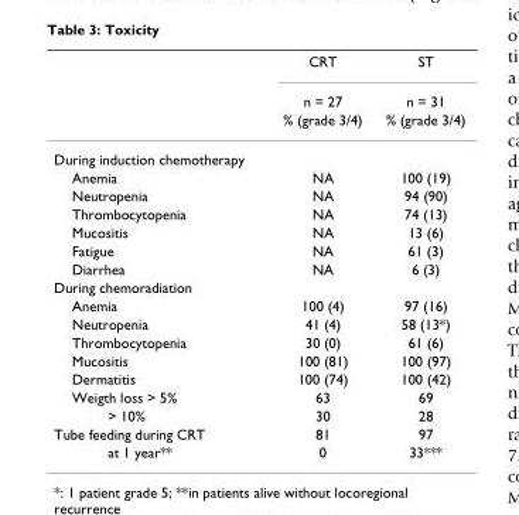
<table><thead><tr><td rowspan="3"></td><td rowspan="3">CRT n = 27 % (grade 3/4)</td><td rowspan="3">ST n = 31 % (grade 3/4)</td></tr><tr></tr><tr></tr></thead><tbody><tr><td colspan="3">During induction chemotherapy</td></tr><tr><td>Anemia</td><td>NA</td><td>100 (19)</td></tr><tr><td>Neutropenia</td><td>NA</td><td>94 (90)</td></tr><tr><td>Thrombocytopenia</td><td>NA</td><td>74 (13)</td></tr><tr><td>Mucositis</td><td>NA</td><td>13 (6)</td></tr><tr><td>Fatigue</td><td>NA</td><td>61 (3)</td></tr><tr><td>Diarrhea</td><td>NA</td><td>6 (3)</td></tr><tr><td colspan="3">During chemoradiation</td></tr><tr><td>Anemia</td><td>100 (4)</td><td>97 (16)</td></tr><tr><td>Neutropenia</td><td>41 (4)</td><td>58 (13*)</td></tr><tr><td>Thrombocytopenia</td><td>30 (0)</td><td>61 (6)</td></tr><tr><td>Mucositis</td><td>100 (81)</td><td>100 (97)</td></tr><tr><td>Dermatitis</td><td>100 (74)</td><td>100 (42)</td></tr><tr><td>Weigth loss &gt; 5%</td><td>63</td><td>69</td></tr><tr><td>&gt; 10%</td><td>30</td><td>28</td></tr><tr><td>Tube feeding during CRT</td><td>81</td><td>97</td></tr><tr><td>at 1 year**</td><td>0</td><td>33***</td></tr></tbody></table>